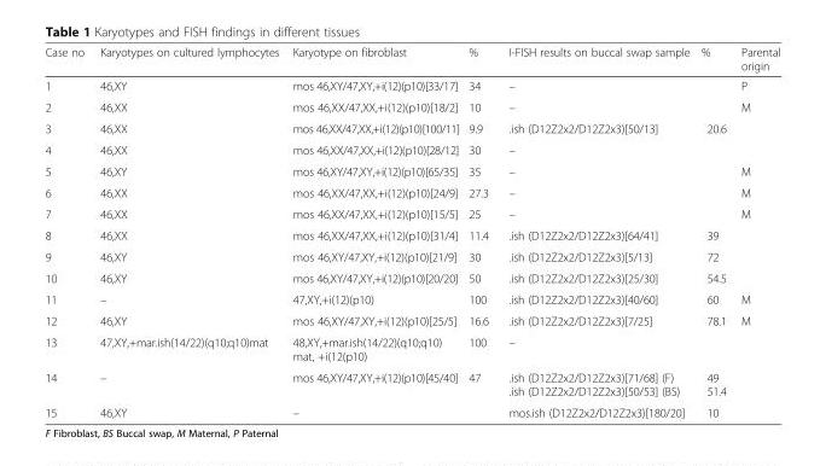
<table><thead><tr><td>Case no</td><td>Karyotypes on cultured lymphocytes</td><td>Karyotype on fibroblast</td><td>%</td><td>I-FISH results on buccal swap sample</td><td>%</td><td>Parental origin</td></tr></thead><tbody><tr><td>1</td><td>46,XY</td><td>mos 46,XY/47,XY,+i(12)(p10)[33/17]</td><td>34</td><td>–</td><td></td><td>P</td></tr><tr><td>2</td><td>46,XX</td><td>mos 46,XX/47,XX,+i(12)(p10)[18/2]</td><td>10</td><td>–</td><td></td><td>M</td></tr><tr><td>3</td><td>46,XX</td><td>mos 46,XX/47,XX,+i(12)(p10)[100/11]</td><td>9.9</td><td>.ish (D12Z2x2/D12Z2x3)[50/13]</td><td>20.6</td><td></td></tr><tr><td>4</td><td>46,XX</td><td>mos 46,XX/47,XX,+i(12)(p10)[28/12]</td><td>30</td><td>–</td><td></td><td></td></tr><tr><td>5</td><td>46,XY</td><td>mos 46,XY/47,XY,+i(12)(p10)[65/35]</td><td>35</td><td>–</td><td></td><td>M</td></tr><tr><td>6</td><td>46,XX</td><td>mos 46,XX/47,XX,+i(12)(p10)[24/9]</td><td>27.3</td><td>–</td><td></td><td>M</td></tr><tr><td>7</td><td>46,XX</td><td>mos 46,XX/47,XX,+i(12)(p10)[15/5]</td><td>25</td><td>–</td><td></td><td>M</td></tr><tr><td>8</td><td>46,XX</td><td>mos 46,XX/47,XX,+i(12)(p10)[31/4]</td><td>11.4</td><td>.ish (D12Z2x2/D12Z2x3)[64/41]</td><td>39</td><td></td></tr><tr><td>9</td><td>46,XY</td><td>mos 46,XY/47,XY,+i(12)(p10)[21/9]</td><td>30</td><td>.ish (D12Z2x2/D12Z2x3)[5/13]</td><td>72</td><td></td></tr><tr><td>10</td><td>46,XY</td><td>mos 46,XY/47,XY,+i(12)(p10)[20/20]</td><td>50</td><td>.ish (D12Z2x2/D12Z2x3)[25/30]</td><td>54.5</td><td></td></tr><tr><td>11</td><td>–</td><td>47,XY,+i(12)(p10)</td><td>100</td><td>.ish (D12Z2x2/D12Z2x3)[40/60]</td><td>60</td><td>M</td></tr><tr><td>12</td><td>46,XY</td><td>mos 46,XY/47,XY,+i(12)(p10)[25/5]</td><td>16.6</td><td>.ish (D12Z2x2/D12Z2x3)[7/25]</td><td>78.1</td><td>M</td></tr><tr><td>13</td><td>47,XY,+mar.ish(14/22)(q10;q10)mat</td><td>48,XY,+mar.ish(14/22)(q10;q10) mat, +i(12(p10)</td><td>100</td><td>–</td><td></td><td></td></tr><tr><td>14</td><td>–</td><td>mos 46,XY/47,XY,+i(12)(p10)[45/40]</td><td>47</td><td>.ish (D12Z2x2/D12Z2x3)[71/68] (F) .ish (D12Z2x2/D12Z2x3)[50/53] (BS)</td><td>49 51.4</td><td></td></tr><tr><td>15</td><td>46,XY</td><td>–</td><td></td><td>mos.ish (D12Z2x2/D12Z2x3)[180/20]</td><td>10</td><td></td></tr></tbody></table>